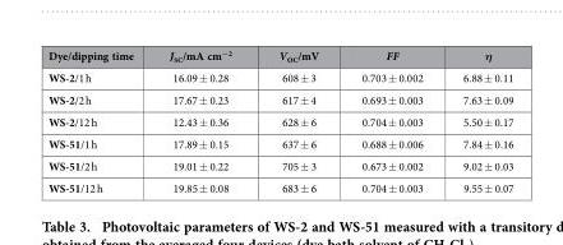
<table><thead><tr><td>Dye/dipping time</td><td>J<sub>SC</sub>/mA cm<sup>−2</sup></td><td>V<sub>OC</sub>/mV</td><td>FF</td><td>η</td></tr></thead><tbody><tr><td>WS-2/1 h</td><td>16.09 ± 0.28</td><td>608 ± 3</td><td>0.703 ± 0.002</td><td>6.88 ± 0.11</td></tr><tr><td>WS-2/2 h</td><td>17.67 ± 0.23</td><td>617 ± 4</td><td>0.693 ± 0.003</td><td>7.63 ± 0.09</td></tr><tr><td>WS-2/12 h</td><td>12.43 ± 0.36</td><td>628 ± 6</td><td>0.704 ± 0.003</td><td>5.50 ± 0.17</td></tr><tr><td>WS-51/1 h</td><td>17.89 ± 0.15</td><td>637 ± 6</td><td>0.688 ± 0.006</td><td>7.84 ± 0.16</td></tr><tr><td>WS-51/2 h</td><td>19.01 ± 0.22</td><td>705 ± 3</td><td>0.673 ± 0.002</td><td>9.02 ± 0.03</td></tr><tr><td>WS-51/12 h</td><td>19.85 ± 0.08</td><td>683 ± 6</td><td>0.704 ± 0.003</td><td>9.55 ± 0.07</td></tr></tbody></table>